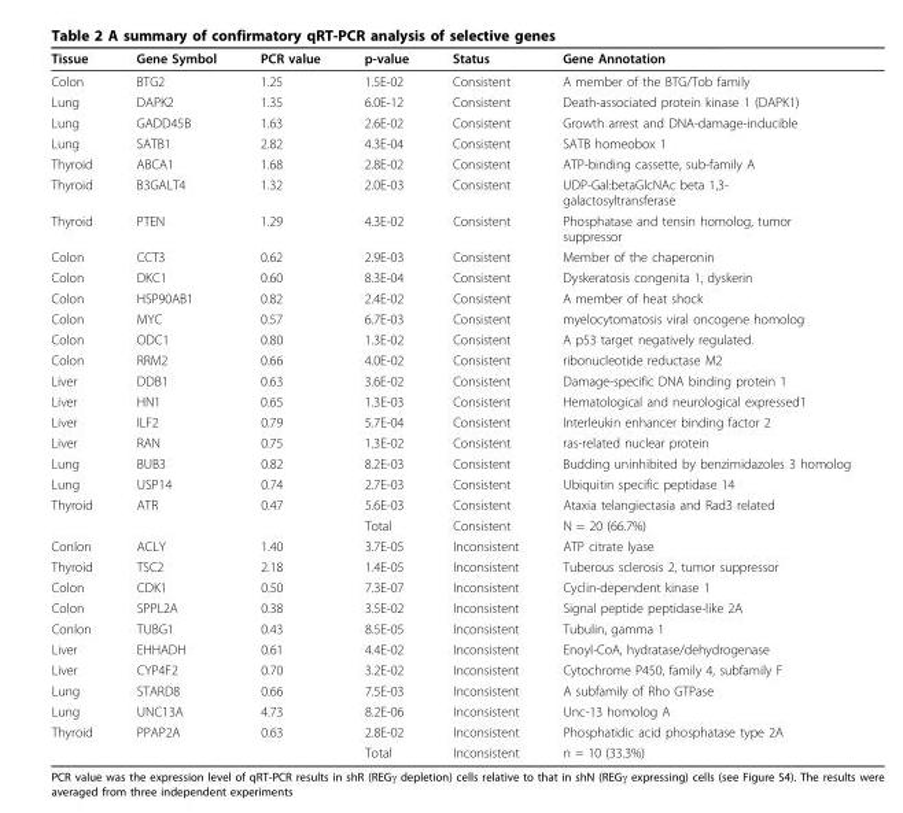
<table><thead><tr><td>Tissue</td><td>Gene Symbol</td><td>PCR value</td><td>p-value</td><td>Status</td><td>Gene Annotation</td></tr></thead><tbody><tr><td>Colon</td><td>BTG2</td><td>1.25</td><td>1.5E-02</td><td>Consistent</td><td>A member of the BTG/Tob family</td></tr><tr><td>Lung</td><td>DAPK2</td><td>1.35</td><td>6.0E-12</td><td>Consistent</td><td>Death-associated protein kinase 1 (DAPK1)</td></tr><tr><td>Lung</td><td>GADD45B</td><td>1.63</td><td>2.6E-02</td><td>Consistent</td><td>Growth arrest and DNA-damage-inducible</td></tr><tr><td>Lung</td><td>SATB1</td><td>2.82</td><td>4.3E-04</td><td>Consistent</td><td>SATB homeobox 1</td></tr><tr><td>Thyroid</td><td>ABCA1</td><td>1.68</td><td>2.8E-02</td><td>Consistent</td><td>ATP-binding cassette, sub-family A</td></tr><tr><td>Thyroid</td><td>B3GALT4</td><td>1.32</td><td>2.0E-03</td><td>Consistent</td><td>UDP-Gal:betaGlcNAc beta 1,3- galactosyltransferase</td></tr><tr><td>Thyroid</td><td>PTEN</td><td>1.29</td><td>4.3E-02</td><td>Consistent</td><td>Phosphatase and tensin homolog, tumor suppressor</td></tr><tr><td>Colon</td><td>CCT3</td><td>0.62</td><td>2.9E-03</td><td>Consistent</td><td>Member of the chaperonin</td></tr><tr><td>Colon</td><td>DKC1</td><td>0.60</td><td>8.3E-04</td><td>Consistent</td><td>Dyskeratosis congenita 1, dyskerin</td></tr><tr><td>Colon</td><td>HSP90AB1</td><td>0.82</td><td>2.4E-02</td><td>Consistent</td><td>A member of heat shock</td></tr><tr><td>Colon</td><td>MYC</td><td>0.57</td><td>6.7E-03</td><td>Consistent</td><td>myelocytomatosis viral oncogene homolog</td></tr><tr><td>Colon</td><td>ODC1</td><td>0.80</td><td>1.3E-02</td><td>Consistent</td><td>A p53 target negatively regulated.</td></tr><tr><td>Colon</td><td>RRM2</td><td>0.66</td><td>4.0E-02</td><td>Consistent</td><td>ribonucleotide reductase M2</td></tr><tr><td>Liver</td><td>DDB1</td><td>0.63</td><td>3.6E-02</td><td>Consistent</td><td>Damage-specific DNA binding protein 1</td></tr><tr><td>Liver</td><td>HN1</td><td>0.65</td><td>1.3E-03</td><td>Consistent</td><td>Hematological and neurological expressed1</td></tr><tr><td>Liver</td><td>ILF2</td><td>0.79</td><td>5.7E-04</td><td>Consistent</td><td>Interleukin enhancer binding factor 2</td></tr><tr><td>Liver</td><td>RAN</td><td>0.75</td><td>1.3E-02</td><td>Consistent</td><td>ras-related nuclear protein</td></tr><tr><td>Lung</td><td>BUB3</td><td>0.82</td><td>8.2E-03</td><td>Consistent</td><td>Budding uninhibited by benzimidazoles 3 homolog</td></tr><tr><td>Lung</td><td>USP14</td><td>0.74</td><td>2.7E-03</td><td>Consistent</td><td>Ubiquitin specific peptidase 14</td></tr><tr><td rowspan="2">Thyroid</td><td>ATR</td><td>0.47</td><td>5.6E-03</td><td>Consistent</td><td>Ataxia telangiectasia and Rad3 related</td></tr><tr><td></td><td></td><td>Total</td><td>Consistent</td><td>N = 20 (66.7%)</td></tr><tr><td>Conlon</td><td>ACLY</td><td>1.40</td><td>3.7E-05</td><td>Inconsistent</td><td>ATP citrate lyase</td></tr><tr><td>Thyroid</td><td>TSC2</td><td>2.18</td><td>1.4E-05</td><td>Inconsistent</td><td>Tuberous sclerosis 2, tumor suppressor</td></tr><tr><td>Colon</td><td>CDK1</td><td>0.50</td><td>7.3E-07</td><td>Inconsistent</td><td>Cyclin-dependent kinase 1</td></tr><tr><td>Colon</td><td>SPPL2A</td><td>0.38</td><td>3.5E-02</td><td>Inconsistent</td><td>Signal peptide peptidase-like 2A</td></tr><tr><td>Conlon</td><td>TUBG1</td><td>0.43</td><td>8.5E-05</td><td>Inconsistent</td><td>Tubulin, gamma 1</td></tr><tr><td>Liver</td><td>EHHADH</td><td>0.61</td><td>4.4E-02</td><td>Inconsistent</td><td>Enoyl-CoA, hydratase/dehydrogenase</td></tr><tr><td>Liver</td><td>CYP4F2</td><td>0.70</td><td>3.2E-02</td><td>Inconsistent</td><td>Cytochrome P450, family 4, subfamily F</td></tr><tr><td>Lung</td><td>STARD8</td><td>0.66</td><td>7.5E-03</td><td>Inconsistent</td><td>A subfamily of Rho GTPase</td></tr><tr><td>Lung</td><td>UNC13A</td><td>4.73</td><td>8.2E-06</td><td>Inconsistent</td><td>Unc-13 homolog A</td></tr><tr><td rowspan="2">Thyroid</td><td>PPAP2A</td><td>0.63</td><td>2.8E-02</td><td>Inconsistent</td><td>Phosphatidic acid phosphatase type 2A</td></tr><tr><td></td><td></td><td>Total</td><td>Inconsistent</td><td>n = 10 (33.3%)</td></tr></tbody></table>